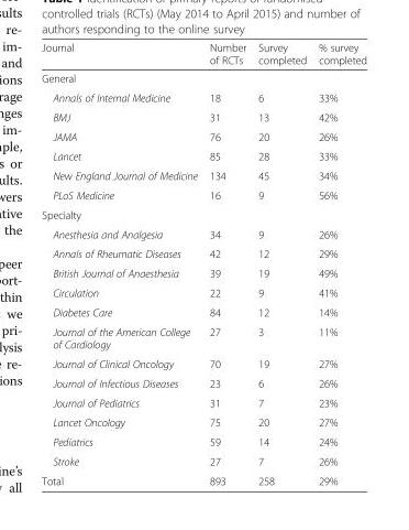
<table><thead><tr><td>Journal</td><td>Number of RCTs</td><td>Survey completed</td><td>% survey completed</td></tr></thead><tbody><tr><td colspan="4">General</td></tr><tr><td>Annals of Internal Medicine</td><td>18</td><td>6</td><td>33%</td></tr><tr><td>BMJ</td><td>31</td><td>13</td><td>42%</td></tr><tr><td>JAMA</td><td>76</td><td>20</td><td>26%</td></tr><tr><td>Lancet</td><td>85</td><td>28</td><td>33%</td></tr><tr><td>New England Journal of Medicine</td><td>134</td><td>45</td><td>34%</td></tr><tr><td>PLoS Medicine</td><td>16</td><td>9</td><td>56%</td></tr><tr><td colspan="4">Specialty</td></tr><tr><td>Anesthesia and Analgesia</td><td>34</td><td>9</td><td>26%</td></tr><tr><td>Annals of Rheumatic Diseases</td><td>42</td><td>12</td><td>29%</td></tr><tr><td>British Journal of Anaesthesia</td><td>39</td><td>19</td><td>49%</td></tr><tr><td>Circulation</td><td>22</td><td>9</td><td>41%</td></tr><tr><td>Diabetes Care</td><td>84</td><td>12</td><td>14%</td></tr><tr><td>Journal of the American College of Cardiology</td><td>27</td><td>3</td><td>11%</td></tr><tr><td>Journal of Clinical Oncology</td><td>70</td><td>19</td><td>27%</td></tr><tr><td>Journal of Infectious Diseases</td><td>23</td><td>6</td><td>26%</td></tr><tr><td>Journal of Pediatrics</td><td>31</td><td>7</td><td>23%</td></tr><tr><td>Lancet Oncology</td><td>75</td><td>20</td><td>27%</td></tr><tr><td>Pediatrics</td><td>59</td><td>14</td><td>24%</td></tr><tr><td>Stroke</td><td>27</td><td>7</td><td>26%</td></tr><tr><td>Total</td><td>893</td><td>258</td><td>29%</td></tr></tbody></table>